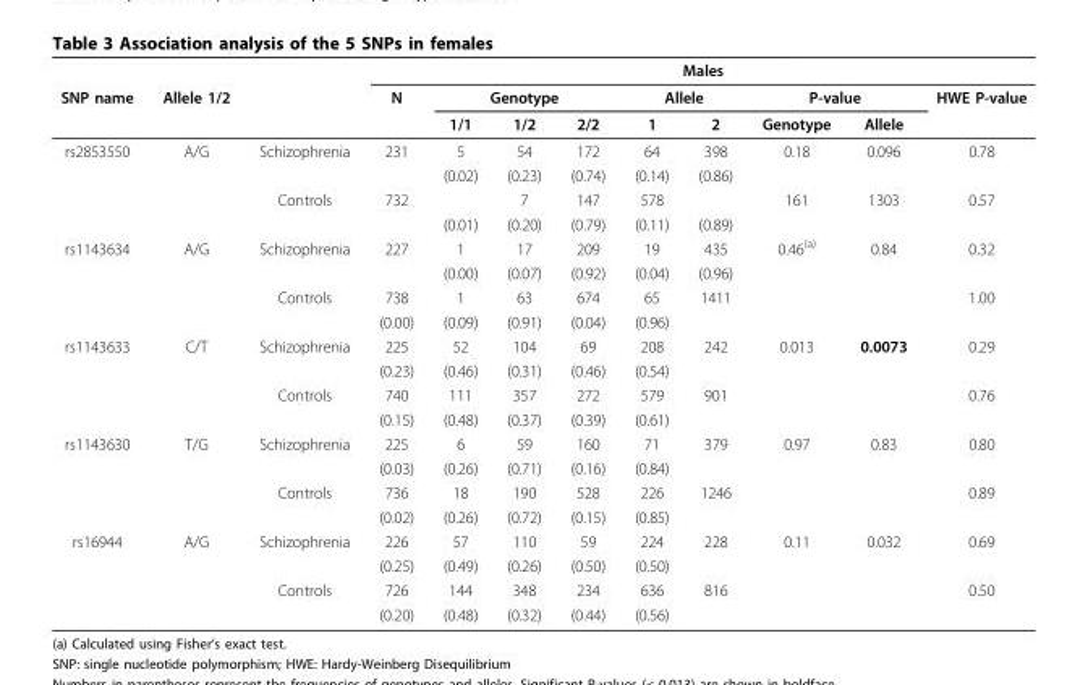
<table><thead><tr><td rowspan="3">SNP name</td><td rowspan="3">Allele 1/2</td><td rowspan="3"></td><td colspan="9">Males</td></tr><tr><td rowspan="2">N</td><td colspan="3">Genotype</td><td colspan="2">Allele</td><td colspan="2">P-value</td><td rowspan="2">HWE P-value</td></tr><tr><td>1/1</td><td>1/2</td><td>2/2</td><td>1</td><td>2</td><td>Genotype</td><td>Allele</td></tr></thead><tbody><tr><td rowspan="4">rs2853550</td><td>A/G</td><td>Schizophrenia</td><td>231</td><td>5</td><td>54</td><td>172</td><td>64</td><td>398</td><td>0.18</td><td>0.096</td><td>0.78</td></tr><tr><td></td><td></td><td></td><td>(0.02)</td><td>(0.23)</td><td>(0.74)</td><td>(0.14)</td><td>(0.86)</td><td></td><td></td><td></td></tr><tr><td></td><td>Controls</td><td>732</td><td></td><td>7</td><td>147</td><td>578</td><td></td><td>161</td><td>1303</td><td>0.57</td></tr><tr><td></td><td></td><td></td><td>(0.01)</td><td>(0.20)</td><td>(0.79)</td><td>(0.11)</td><td>(0.89)</td><td></td><td></td><td></td></tr><tr><td rowspan="4">rs1143634</td><td>A/G</td><td>Schizophrenia</td><td>227</td><td>1</td><td>17</td><td>209</td><td>19</td><td>435</td><td>0.46<sup>(a)</sup></td><td>0.84</td><td>0.32</td></tr><tr><td></td><td></td><td></td><td>(0.00)</td><td>(0.07)</td><td>(0.92)</td><td>(0.04)</td><td>(0.96)</td><td></td><td></td><td></td></tr><tr><td></td><td>Controls</td><td>738</td><td>1</td><td>63</td><td>674</td><td>65</td><td>1411</td><td></td><td></td><td>1.00</td></tr><tr><td></td><td></td><td>(0.00)</td><td>(0.09)</td><td>(0.91)</td><td>(0.04)</td><td>(0.96)</td><td></td><td></td><td></td><td></td></tr><tr><td rowspan="4">rs1143633</td><td>C/T</td><td>Schizophrenia</td><td>225</td><td>52</td><td>104</td><td>69</td><td>208</td><td>242</td><td>0.013</td><td>0.0073</td><td>0.29</td></tr><tr><td></td><td></td><td>(0.23)</td><td>(0.46)</td><td>(0.31)</td><td>(0.46)</td><td>(0.54)</td><td></td><td></td><td></td><td></td></tr><tr><td></td><td>Controls</td><td>740</td><td>111</td><td>357</td><td>272</td><td>579</td><td>901</td><td></td><td></td><td>0.76</td></tr><tr><td></td><td></td><td>(0.15)</td><td>(0.48)</td><td>(0.37)</td><td>(0.39)</td><td>(0.61)</td><td></td><td></td><td></td><td></td></tr><tr><td rowspan="4">rs1143630</td><td>T/G</td><td>Schizophrenia</td><td>225</td><td>6</td><td>59</td><td>160</td><td>71</td><td>379</td><td>0.97</td><td>0.83</td><td>0.80</td></tr><tr><td></td><td></td><td>(0.03)</td><td>(0.26)</td><td>(0.71)</td><td>(0.16)</td><td>(0.84)</td><td></td><td></td><td></td><td></td></tr><tr><td></td><td>Controls</td><td>736</td><td>18</td><td>190</td><td>528</td><td>226</td><td>1246</td><td></td><td></td><td>0.89</td></tr><tr><td></td><td></td><td>(0.02)</td><td>(0.26)</td><td>(0.72)</td><td>(0.15)</td><td>(0.85)</td><td></td><td></td><td></td><td></td></tr><tr><td rowspan="4">rs16944</td><td>A/G</td><td>Schizophrenia</td><td>226</td><td>57</td><td>110</td><td>59</td><td>224</td><td>228</td><td>0.11</td><td>0.032</td><td>0.69</td></tr><tr><td></td><td></td><td>(0.25)</td><td>(0.49)</td><td>(0.26)</td><td>(0.50)</td><td>(0.50)</td><td></td><td></td><td></td><td></td></tr><tr><td></td><td>Controls</td><td>726</td><td>144</td><td>348</td><td>234</td><td>636</td><td>816</td><td></td><td></td><td>0.50</td></tr><tr><td></td><td></td><td>(0.20)</td><td>(0.48)</td><td>(0.32)</td><td>(0.44)</td><td>(0.56)</td><td></td><td></td><td></td><td></td></tr></tbody></table>